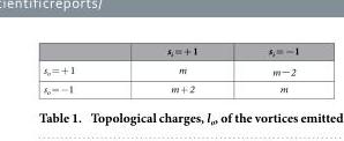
<table><thead><tr><td></td><td>s<sub>i</sub> = + 1</td><td>s<sub>i</sub> = −1</td></tr></thead><tbody><tr><td>s<sub>o</sub> = + 1</td><td>m</td><td>m−2</td></tr><tr><td>s<sub>o</sub> = − 1</td><td>m + 2</td><td>m</td></tr></tbody></table>